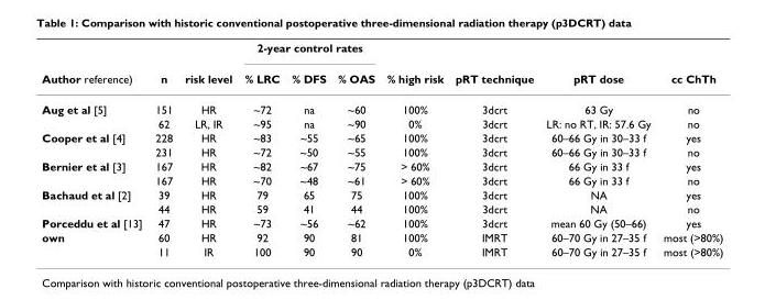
<table><thead><tr><td rowspan="2">Author reference)</td><td rowspan="2">n</td><td rowspan="2">risk level</td><td colspan="3">2-year control rates</td><td rowspan="2">% high risk</td><td rowspan="2">pRT technique</td><td rowspan="2">pRT dose</td><td rowspan="2">cc ChTh</td></tr><tr><td>% LRC</td><td>% DFS</td><td>% OAS</td></tr></thead><tbody><tr><td rowspan="2">Aug et al [5]</td><td>151</td><td>HR</td><td>~72</td><td>na</td><td>~60</td><td>100%</td><td>3dcrt</td><td>63 Gy</td><td>no</td></tr><tr><td>62</td><td>LR, IR</td><td>~95</td><td>na</td><td>~90</td><td>0%</td><td>3dcrt</td><td>LR: no RT, IR: 57.6 Gy</td><td>no</td></tr><tr><td rowspan="2">Cooper et al [4]</td><td>228</td><td>HR</td><td>~83</td><td>~55</td><td>~65</td><td>100%</td><td>3dcrt</td><td>60–66 Gy in 30–33 f</td><td>yes</td></tr><tr><td>231</td><td>HR</td><td>~72</td><td>~50</td><td>~55</td><td>100%</td><td>3dcrt</td><td>60–66 Gy in 30–33 f</td><td>no</td></tr><tr><td rowspan="2">Bernier et al [3]</td><td>167</td><td>HR</td><td>~82</td><td>~67</td><td>~75</td><td>&gt; 60%</td><td>3dcrt</td><td>66 Gy in 33 f</td><td>yes</td></tr><tr><td>167</td><td>HR</td><td>~70</td><td>~48</td><td>~61</td><td>&gt; 60%</td><td>3dcrt</td><td>66 Gy in 33 f</td><td>no</td></tr><tr><td rowspan="2">Bachaud et al [2]</td><td>39</td><td>HR</td><td>79</td><td>65</td><td>75</td><td>100%</td><td>3dcrt</td><td>NA</td><td>yes</td></tr><tr><td>44</td><td>HR</td><td>59</td><td>41</td><td>44</td><td>100%</td><td>3dcrt</td><td>NA</td><td>no</td></tr><tr><td>Porceddu et al [13]</td><td>47</td><td>HR</td><td>~73</td><td>~56</td><td>~62</td><td>100%</td><td>3dcrt</td><td>mean 60 Gy (50–66)</td><td>yes</td></tr><tr><td rowspan="2">own</td><td>60</td><td>HR</td><td>92</td><td>90</td><td>81</td><td>100%</td><td>IMRT</td><td>60–70 Gy in 27–35 f</td><td>most (&gt;80%)</td></tr><tr><td>11</td><td>IR</td><td>100</td><td>90</td><td>90</td><td>0%</td><td>IMRT</td><td>60–70 Gy in 27–35 f</td><td>most (&gt;80%)</td></tr></tbody></table>